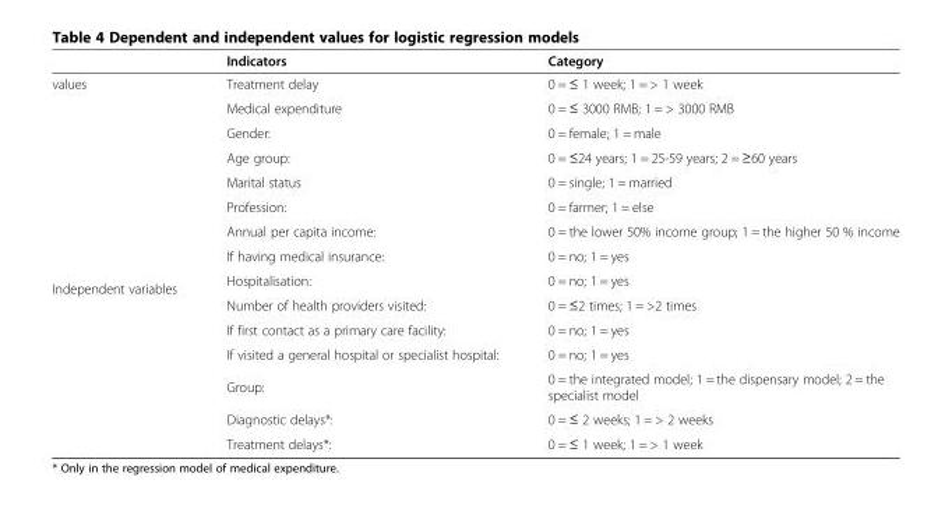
<table><thead><tr><td></td><td>Indicators</td><td>Category</td></tr></thead><tbody><tr><td rowspan="2">values</td><td>Treatment delay</td><td>0 = ≤ 1 week; 1 = &gt; 1 week</td></tr><tr><td>Medical expenditure</td><td>0 = ≤ 3000 RMB; 1 = &gt; 3000 RMB</td></tr><tr><td rowspan="13">Independent variables</td><td>Gender:</td><td>0 = female; 1 = male</td></tr><tr><td>Age group:</td><td>0 = ≤24 years; 1 = 25-59 years; 2 = ≥60 years</td></tr><tr><td>Marital status</td><td>0 = single; 1 = married</td></tr><tr><td>Profession:</td><td>0 = farmer; 1 = else</td></tr><tr><td>Annual per capita income:</td><td>0 = the lower 50% income group; 1 = the higher 50 % income</td></tr><tr><td>If having medical insurance:</td><td>0 = no; 1 = yes</td></tr><tr><td>Hospitalisation:</td><td>0 = no; 1 = yes</td></tr><tr><td>Number of health providers visited:</td><td>0 = ≤2 times; 1 = &gt;2 times</td></tr><tr><td>If first contact as a primary care facility:</td><td>0 = no; 1 = yes</td></tr><tr><td>If visited a general hospital or specialist hospital:</td><td>0 = no; 1 = yes</td></tr><tr><td>Group:</td><td>0 = the integrated model; 1 = the dispensary model; 2 = the specialist model</td></tr><tr><td>Diagnostic delays*:</td><td>0 = ≤ 2 weeks; 1 = &gt; 2 weeks</td></tr><tr><td>Treatment delays*:</td><td>0 = ≤ 1 week; 1 = &gt; 1 week</td></tr></tbody></table>